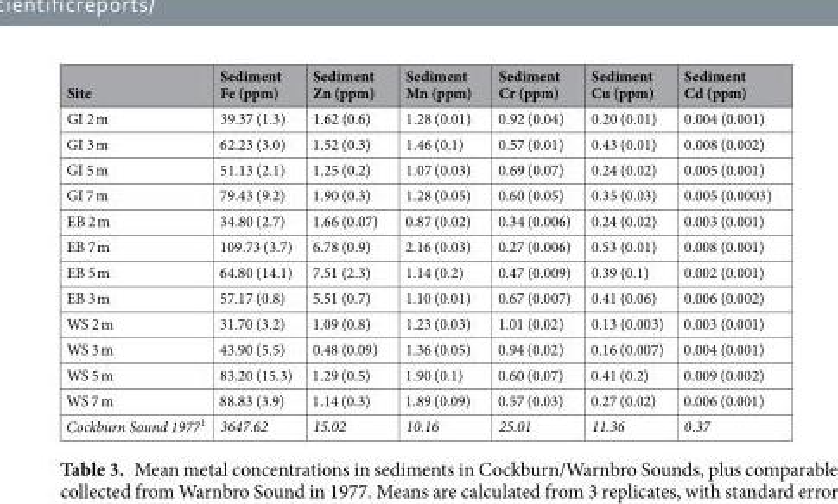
<table><thead><tr><td>Site</td><td>Sediment Fe (ppm)</td><td>Sediment Zn (ppm)</td><td>Sediment Mn (ppm)</td><td>Sediment Cr (ppm)</td><td>Sediment Cu (ppm)</td><td>Sediment Cd (ppm)</td></tr></thead><tbody><tr><td>GI 2 m</td><td>39.37 (1.3)</td><td>1.62 (0.6)</td><td>1.28 (0.01)</td><td>0.92 (0.04)</td><td>0.20 (0.01)</td><td>0.004 (0.001)</td></tr><tr><td>GI 3 m</td><td>62.23 (3.0)</td><td>1.52 (0.3)</td><td>1.46 (0.1)</td><td>0.57 (0.01)</td><td>0.43 (0.01)</td><td>0.008 (0.002)</td></tr><tr><td>GI 5 m</td><td>51.13 (2.1)</td><td>1.25 (0.2)</td><td>1.07 (0.03)</td><td>0.69 (0.07)</td><td>0.24 (0.02)</td><td>0.005 (0.001)</td></tr><tr><td>GI 7 m</td><td>79.43 (9.2)</td><td>1.90 (0.3)</td><td>1.28 (0.05)</td><td>0.60 (0.05)</td><td>0.35 (0.03)</td><td>0.005 (0.0003)</td></tr><tr><td>EB 2 m</td><td>34.80 (2.7)</td><td>1.66 (0.07)</td><td>0.87 (0.02)</td><td>0.34 (0.006)</td><td>0.24 (0.02)</td><td>0.003 (0.001)</td></tr><tr><td>EB 7 m</td><td>109.73 (3.7)</td><td>6.78 (0.9)</td><td>2.16 (0.03)</td><td>0.27 (0.006)</td><td>0.53 (0.01)</td><td>0.008 (0.001)</td></tr><tr><td>EB 5 m</td><td>64.80 (14.1)</td><td>7.51 (2.3)</td><td>1.14 (0.2)</td><td>0.47 (0.009)</td><td>0.39 (0.1)</td><td>0.002 (0.001)</td></tr><tr><td>EB 3 m</td><td>57.17 (0.8)</td><td>5.51 (0.7)</td><td>1.10 (0.01)</td><td>0.67 (0.007)</td><td>0.41 (0.06)</td><td>0.006 (0.002)</td></tr><tr><td>WS 2 m</td><td>31.70 (3.2)</td><td>1.09 (0.8)</td><td>1.23 (0.03)</td><td>1.01 (0.02)</td><td>0.13 (0.003)</td><td>0.003 (0.001)</td></tr><tr><td>WS 3 m</td><td>43.90 (5.5)</td><td>0.48 (0.09)</td><td>1.36 (0.05)</td><td>0.94 (0.02)</td><td>0.16 (0.007)</td><td>0.004 (0.001)</td></tr><tr><td>WS 5 m</td><td>83.20 (15.3)</td><td>1.29 (0.5)</td><td>1.90 (0.1)</td><td>0.60 (0.07)</td><td>0.41 (0.2)</td><td>0.009 (0.002)</td></tr><tr><td>WS 7 m</td><td>88.83 (3.9)</td><td>1.14 (0.3)</td><td>1.89 (0.09)</td><td>0.57 (0.03)</td><td>0.27 (0.02)</td><td>0.006 (0.001)</td></tr><tr><td>Cockburn Sound 1977<sup>1</sup></td><td>3647.62</td><td>15.02</td><td>10.16</td><td>25.01</td><td>11.36</td><td>0.37</td></tr></tbody></table>